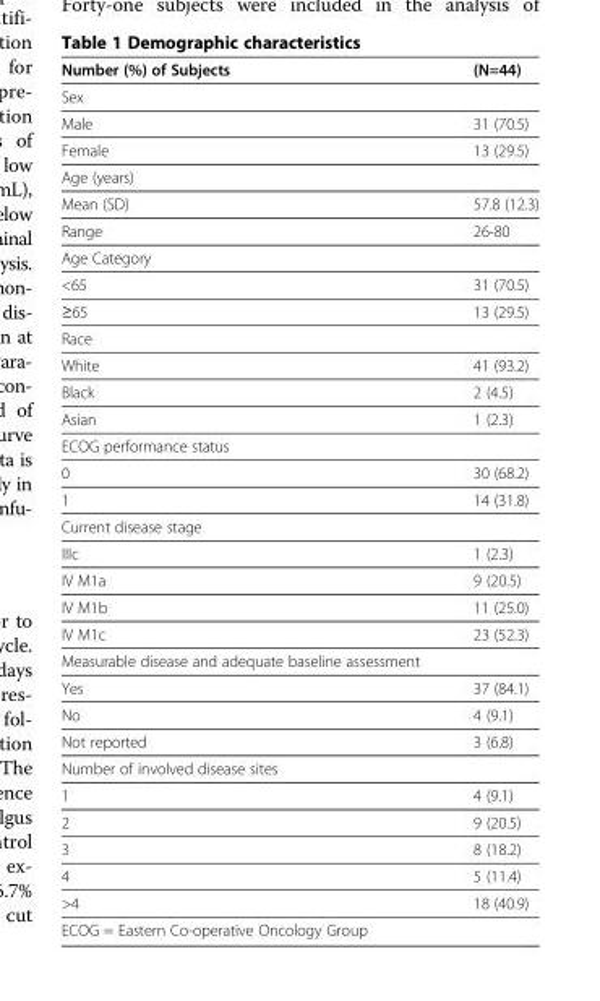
<table><thead><tr><td>Number (%) of Subjects</td><td>(N=44)</td></tr></thead><tbody><tr><td colspan="2">Sex</td></tr><tr><td>Male</td><td>31 (70.5)</td></tr><tr><td>Female</td><td>13 (29.5)</td></tr><tr><td colspan="2">Age (years)</td></tr><tr><td>Mean (SD)</td><td>57.8 (12.3)</td></tr><tr><td>Range</td><td>26-80</td></tr><tr><td colspan="2">Age Category</td></tr><tr><td>&lt;65</td><td>31 (70.5)</td></tr><tr><td>≥65</td><td>13 (29.5)</td></tr><tr><td colspan="2">Race</td></tr><tr><td>White</td><td>41 (93.2)</td></tr><tr><td>Black</td><td>2 (4.5)</td></tr><tr><td>Asian</td><td>1 (2.3)</td></tr><tr><td colspan="2">ECOG performance status</td></tr><tr><td>0</td><td>30 (68.2)</td></tr><tr><td>1</td><td>14 (31.8)</td></tr><tr><td colspan="2">Current disease stage</td></tr><tr><td>IIIc</td><td>1 (2.3)</td></tr><tr><td>IV M1a</td><td>9 (20.5)</td></tr><tr><td>IV M1b</td><td>11 (25.0)</td></tr><tr><td>IV M1c</td><td>23 (52.3)</td></tr><tr><td colspan="2">Measurable disease and adequate baseline assessment</td></tr><tr><td>Yes</td><td>37 (84.1)</td></tr><tr><td>No</td><td>4 (9.1)</td></tr><tr><td>Not reported</td><td>3 (6.8)</td></tr><tr><td colspan="2">Number of involved disease sites</td></tr><tr><td>1</td><td>4 (9.1)</td></tr><tr><td>2</td><td>9 (20.5)</td></tr><tr><td>3</td><td>8 (18.2)</td></tr><tr><td>4</td><td>5 (11.4)</td></tr><tr><td>&gt;4</td><td>18 (40.9)</td></tr><tr><td colspan="2">ECOG = Eastern Co-operative Oncology Group</td></tr></tbody></table>